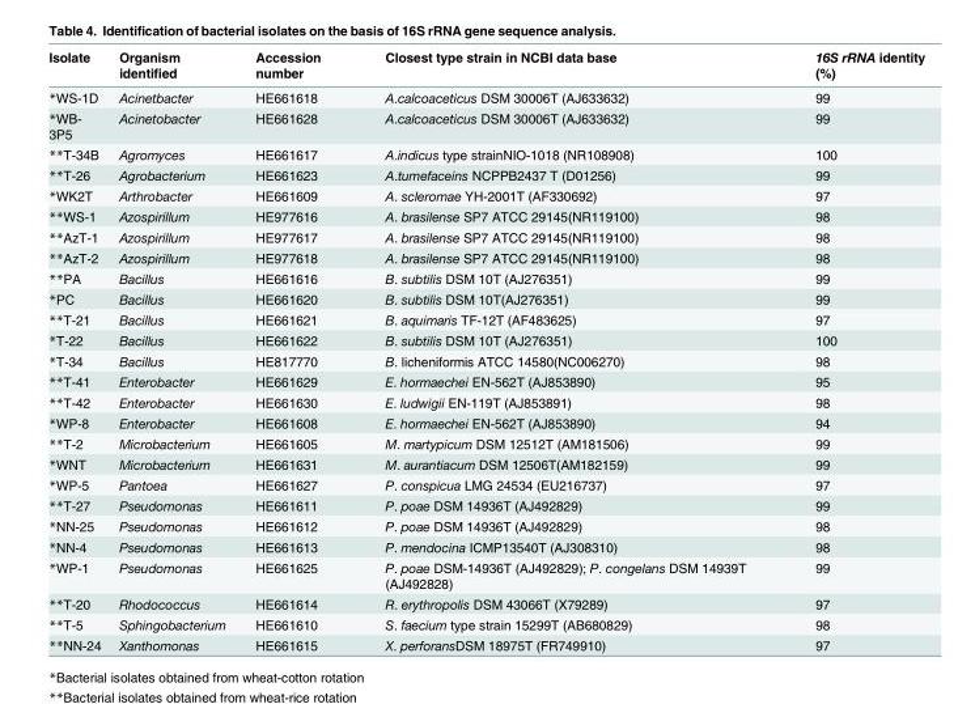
<table><thead><tr><td>Isolate</td><td>Organism identified</td><td>Accession number</td><td>Closest type strain in NCBI data base</td><td>16S rRNA identity (%)</td></tr></thead><tbody><tr><td>*WS-1D</td><td>Acinetbacter</td><td>HE661618</td><td>A.calcoaceticus DSM 30006T (AJ633632)</td><td>99</td></tr><tr><td>*WB- 3P5</td><td>Acinetobacter</td><td>HE661628</td><td>A.calcoaceticus DSM 30006T (AJ633632)</td><td>99</td></tr><tr><td>**T-34B</td><td>Agromyces</td><td>HE661617</td><td>A.indicus type strainNIO-1018 (NR108908)</td><td>100</td></tr><tr><td>**T-26</td><td>Agrobacterium</td><td>HE661623</td><td>A.tumefaceins NCPPB2437 T (D01256)</td><td>99</td></tr><tr><td>*WK2T</td><td>Arthrobacter</td><td>HE661609</td><td>A. scleromae YH-2001T (AF330692)</td><td>97</td></tr><tr><td>**WS-1</td><td>Azospirillum</td><td>HE977616</td><td>A. brasilense SP7 ATCC 29145(NR119100)</td><td>98</td></tr><tr><td>**AzT-1</td><td>Azospirillum</td><td>HE977617</td><td>A. brasilense SP7 ATCC 29145(NR119100)</td><td>98</td></tr><tr><td>**AzT-2</td><td>Azospirillum</td><td>HE977618</td><td>A. brasilense SP7 ATCC 29145(NR119100)</td><td>98</td></tr><tr><td>**PA</td><td>Bacillus</td><td>HE661616</td><td>B. subtilis DSM 10T (AJ276351)</td><td>99</td></tr><tr><td>*PC</td><td>Bacillus</td><td>HE661620</td><td>B. subtilis DSM 10T(AJ276351)</td><td>99</td></tr><tr><td>**T-21</td><td>Bacillus</td><td>HE661621</td><td>B. aquimaris TF-12T (AF483625)</td><td>97</td></tr><tr><td>*T-22</td><td>Bacillus</td><td>HE661622</td><td>B. subtilis DSM 10T (AJ276351)</td><td>100</td></tr><tr><td>*T-34</td><td>Bacillus</td><td>HE817770</td><td>B. licheniformis ATCC 14580(NC006270)</td><td>98</td></tr><tr><td>**T-41</td><td>Enterobacter</td><td>HE661629</td><td>E. hormaechei EN-562T (AJ853890)</td><td>95</td></tr><tr><td>**T-42</td><td>Enterobacter</td><td>HE661630</td><td>E. ludwigii EN-119T (AJ853891)</td><td>98</td></tr><tr><td>*WP-8</td><td>Enterobacter</td><td>HE661608</td><td>E. hormaechei EN-562T (AJ853890)</td><td>94</td></tr><tr><td>**T-2</td><td>Microbacterium</td><td>HE661605</td><td>M. martypicum DSM 12512T (AM181506)</td><td>99</td></tr><tr><td>*WNT</td><td>Microbacterium</td><td>HE661631</td><td>M. aurantiacum DSM 12506T(AM182159)</td><td>99</td></tr><tr><td>*WP-5</td><td>Pantoea</td><td>HE661627</td><td>P. conspicua LMG 24534 (EU216737)</td><td>97</td></tr><tr><td>**T-27</td><td>Pseudomonas</td><td>HE661611</td><td>P. poae DSM 14936T (AJ492829)</td><td>99</td></tr><tr><td>*NN-25</td><td>Pseudomonas</td><td>HE661612</td><td>P. poae DSM 14936T (AJ492829)</td><td>98</td></tr><tr><td>*NN-4</td><td>Pseudomonas</td><td>HE661613</td><td>P. mendocina ICMP13540T (AJ308310)</td><td>98</td></tr><tr><td>*WP-1</td><td>Pseudomonas</td><td>HE661625</td><td>P. poae DSM-14936T (AJ492829); P. congelans DSM 14939T (AJ492828)</td><td>99</td></tr><tr><td>**T-20</td><td>Rhodococcus</td><td>HE661614</td><td>R. erythropolis DSM 43066T (X79289)</td><td>97</td></tr><tr><td>**T-5</td><td>Sphingobacterium</td><td>HE661610</td><td>S. faecium type strain 15299T (AB680829)</td><td>98</td></tr><tr><td>**NN-24</td><td>Xanthomonas</td><td>HE661615</td><td>X. perforansDSM 18975T (FR749910)</td><td>97</td></tr></tbody></table>